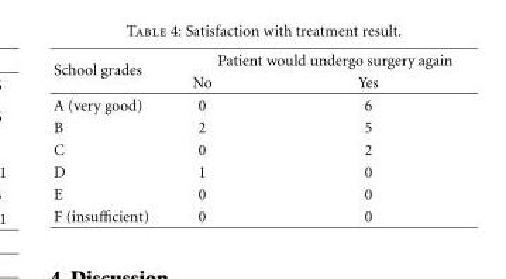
<table><thead><tr><td rowspan="2">School grades</td><td colspan="2">Patient would undergo surgery again</td></tr><tr><td>No</td><td>Yes</td></tr></thead><tbody><tr><td>A (very good)</td><td>0</td><td>6</td></tr><tr><td>B</td><td>2</td><td>5</td></tr><tr><td>C</td><td>0</td><td>2</td></tr><tr><td>D</td><td>1</td><td>0</td></tr><tr><td>E</td><td>0</td><td>0</td></tr><tr><td>F (insufficient)</td><td>0</td><td>0</td></tr></tbody></table>